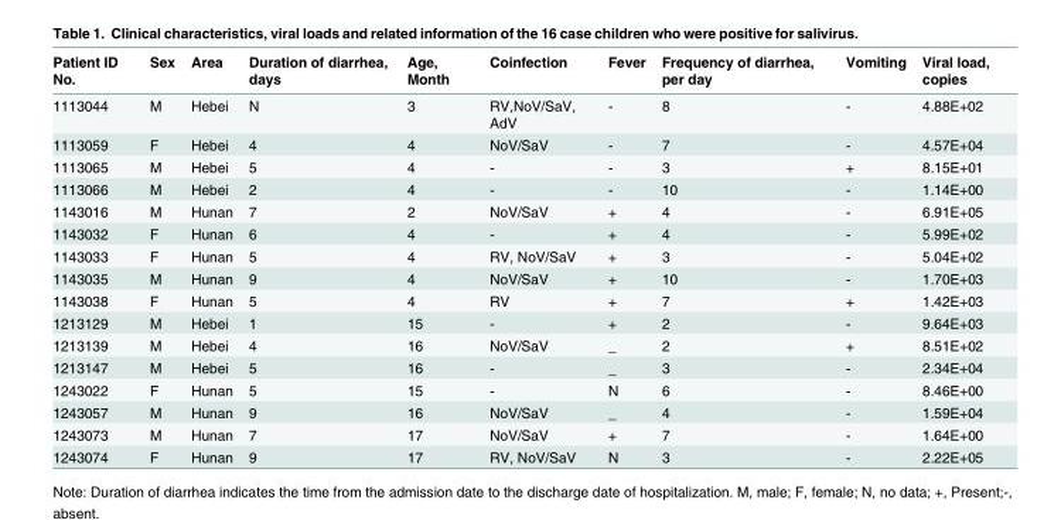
<table><thead><tr><td>Patient ID No.</td><td>Sex</td><td>Area</td><td>Duration of diarrhea, days</td><td>Age, Month</td><td>Coinfection</td><td>Fever</td><td>Frequency of diarrhea, per day</td><td>Vomiting</td><td>Viral load, copies</td></tr></thead><tbody><tr><td>1113044</td><td>M</td><td>Hebei</td><td>N</td><td>3</td><td>RV,NoV/SaV, AdV</td><td>-</td><td>8</td><td>-</td><td>4.88E+02</td></tr><tr><td>1113059</td><td>F</td><td>Hebei</td><td>4</td><td>4</td><td>NoV/SaV</td><td>-</td><td>7</td><td>-</td><td>4.57E+04</td></tr><tr><td>1113065</td><td>M</td><td>Hebei</td><td>5</td><td>4</td><td>-</td><td>-</td><td>3</td><td>+</td><td>8.15E+01</td></tr><tr><td>1113066</td><td>M</td><td>Hebei</td><td>2</td><td>4</td><td>-</td><td>-</td><td>10</td><td>-</td><td>1.14E+00</td></tr><tr><td>1143016</td><td>M</td><td>Hunan</td><td>7</td><td>2</td><td>NoV/SaV</td><td>+</td><td>4</td><td>-</td><td>6.91E+05</td></tr><tr><td>1143032</td><td>F</td><td>Hunan</td><td>6</td><td>4</td><td>-</td><td>+</td><td>4</td><td>-</td><td>5.99E+02</td></tr><tr><td>1143033</td><td>F</td><td>Hunan</td><td>5</td><td>4</td><td>RV, NoV/SaV</td><td>+</td><td>3</td><td>-</td><td>5.04E+02</td></tr><tr><td>1143035</td><td>M</td><td>Hunan</td><td>9</td><td>4</td><td>NoV/SaV</td><td>+</td><td>10</td><td>-</td><td>1.70E+03</td></tr><tr><td>1143038</td><td>F</td><td>Hunan</td><td>5</td><td>4</td><td>RV</td><td>+</td><td>7</td><td>+</td><td>1.42E+03</td></tr><tr><td>1213129</td><td>M</td><td>Hebei</td><td>1</td><td>15</td><td>-</td><td>+</td><td>2</td><td>-</td><td>9.64E+03</td></tr><tr><td>1213139</td><td>M</td><td>Hebei</td><td>4</td><td>16</td><td>NoV/SaV</td><td>_</td><td>2</td><td>+</td><td>8.51E+02</td></tr><tr><td>1213147</td><td>M</td><td>Hebei</td><td>5</td><td>16</td><td>-</td><td>_</td><td>3</td><td>-</td><td>2.34E+04</td></tr><tr><td>1243022</td><td>F</td><td>Hunan</td><td>5</td><td>15</td><td>-</td><td>N</td><td>6</td><td>-</td><td>8.46E+00</td></tr><tr><td>1243057</td><td>M</td><td>Hunan</td><td>9</td><td>16</td><td>NoV/SaV</td><td>_</td><td>4</td><td>-</td><td>1.59E+04</td></tr><tr><td>1243073</td><td>M</td><td>Hunan</td><td>7</td><td>17</td><td>NoV/SaV</td><td>+</td><td>7</td><td>-</td><td>1.64E+00</td></tr><tr><td>1243074</td><td>F</td><td>Hunan</td><td>9</td><td>17</td><td>RV, NoV/SaV</td><td>N</td><td>3</td><td>-</td><td>2.22E+05</td></tr></tbody></table>